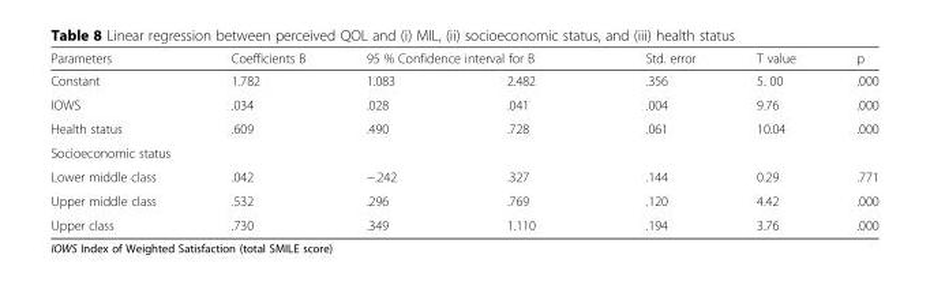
<table><thead><tr><td rowspan="2">Parameters Constant</td><td rowspan="2">Coefficients B 1.782</td><td colspan="2">95 % Confidence interval for B</td><td rowspan="2">Std. error .356</td><td rowspan="2">T value 5. 00</td><td rowspan="2">p .000</td></tr><tr><td>1.083</td><td>2.482</td></tr></thead><tbody><tr><td>IOWS</td><td>.034</td><td>.028</td><td>.041</td><td>.004</td><td>9.76</td><td>.000</td></tr><tr><td>Health status</td><td>.609</td><td>.490</td><td>.728</td><td>.061</td><td>10.04</td><td>.000</td></tr><tr><td colspan="7">Socioeconomic status</td></tr><tr><td>Lower middle class</td><td>.042</td><td>−.242</td><td>.327</td><td>.144</td><td>0.29</td><td>.771</td></tr><tr><td>Upper middle class</td><td>.532</td><td>.296</td><td>.769</td><td>.120</td><td>4.42</td><td>.000</td></tr><tr><td>Upper class</td><td>.730</td><td>.349</td><td>1.110</td><td>.194</td><td>3.76</td><td>.000</td></tr></tbody></table>